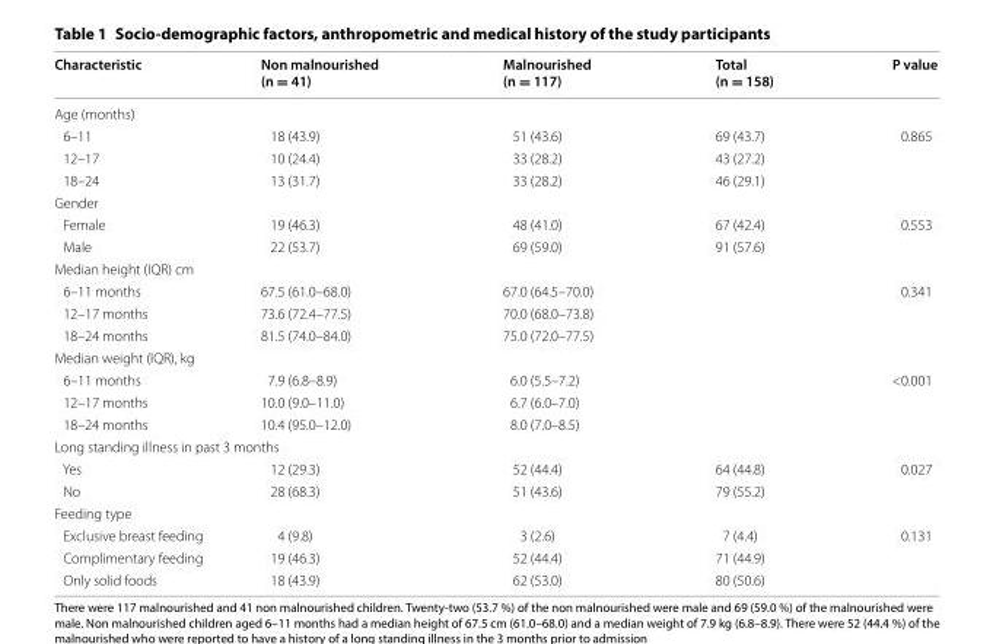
<table><thead><tr><td>Characteristic</td><td>Non malnourished (n = 41)</td><td>Malnourished (n = 117)</td><td>Total (n = 158)</td><td>P value</td></tr></thead><tbody><tr><td colspan="5">Age (months)</td></tr><tr><td>6–11</td><td>18 (43.9)</td><td>51 (43.6)</td><td>69 (43.7)</td><td rowspan="3">0.865</td></tr><tr><td>12–17</td><td>10 (24.4)</td><td>33 (28.2)</td><td>43 (27.2)</td></tr><tr><td>18–24</td><td>13 (31.7)</td><td>33 (28.2)</td><td>46 (29.1)</td></tr><tr><td colspan="5">Gender</td></tr><tr><td>Female</td><td>19 (46.3)</td><td>48 (41.0)</td><td>67 (42.4)</td><td rowspan="2">0.553</td></tr><tr><td>Male</td><td>22 (53.7)</td><td>69 (59.0)</td><td>91 (57.6)</td></tr><tr><td colspan="5">Median height (IQR) cm</td></tr><tr><td>6–11 months</td><td>67.5 (61.0–68.0)</td><td>67.0 (64.5–70.0)</td><td></td><td rowspan="3">0.341</td></tr><tr><td>12–17 months</td><td>73.6 (72.4–77.5)</td><td>70.0 (68.0–73.8)</td><td></td></tr><tr><td>18–24 months</td><td>81.5 (74.0–84.0)</td><td>75.0 (72.0–77.5)</td><td></td></tr><tr><td colspan="5">Median weight (IQR), kg</td></tr><tr><td>6–11 months</td><td>7.9 (6.8–8.9)</td><td>6.0 (5.5–7.2)</td><td></td><td rowspan="3">&lt;0.001</td></tr><tr><td>12–17 months</td><td>10.0 (9.0–11.0)</td><td>6.7 (6.0–7.0)</td><td></td></tr><tr><td>18–24 months</td><td>10.4 (95.0–12.0)</td><td>8.0 (7.0–8.5)</td><td></td></tr><tr><td colspan="5">Long standing illness in past 3 months</td></tr><tr><td>Yes</td><td>12 (29.3)</td><td>52 (44.4)</td><td>64 (44.8)</td><td rowspan="2">0.027</td></tr><tr><td>No</td><td>28 (68.3)</td><td>51 (43.6)</td><td>79 (55.2)</td></tr><tr><td colspan="5">Feeding type</td></tr><tr><td>Exclusive breast feeding</td><td>4 (9.8)</td><td>3 (2.6)</td><td>7 (4.4)</td><td rowspan="3">0.131</td></tr><tr><td>Complimentary feeding</td><td>19 (46.3)</td><td>52 (44.4)</td><td>71 (44.9)</td></tr><tr><td>Only solid foods</td><td>18 (43.9)</td><td>62 (53.0)</td><td>80 (50.6)</td></tr></tbody></table>